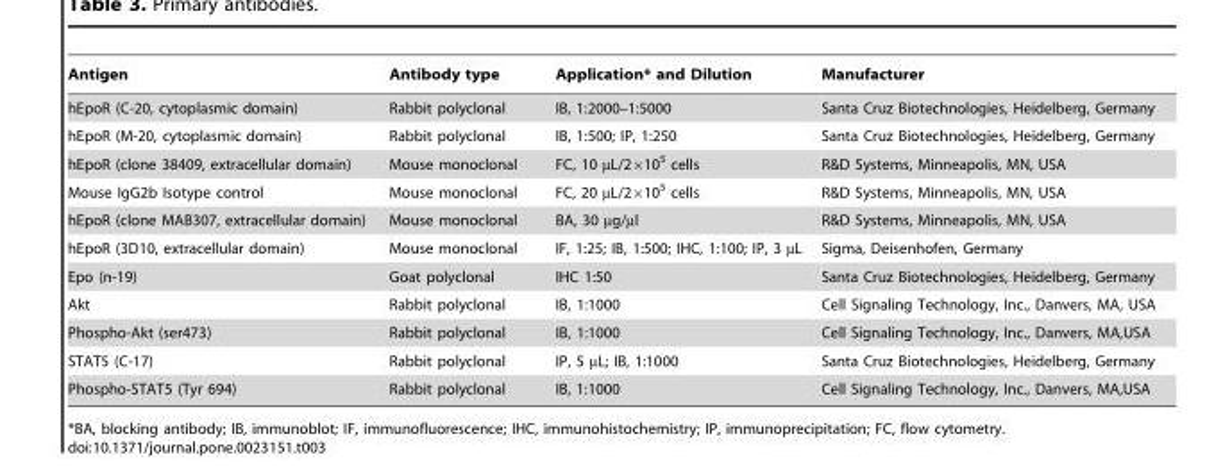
<table><thead><tr><td>Antigen</td><td>Antibody type</td><td>Application* and Dilution</td><td>Manufacturer</td></tr></thead><tbody><tr><td>hEpoR (C-20, cytoplasmic domain)</td><td>Rabbit polyclonal</td><td>IB, 1:2000–1:5000</td><td>Santa Cruz Biotechnologies, Heidelberg, Germany</td></tr><tr><td>hEpoR (M-20, cytoplasmic domain)</td><td>Rabbit polyclonal</td><td>IB, 1:500; IP, 1:250</td><td>Santa Cruz Biotechnologies, Heidelberg, Germany</td></tr><tr><td>hEpoR (clone 38409, extracellular domain)</td><td>Mouse monoclonal</td><td>FC, 10 µL/2×10<sup>5</sup> cells</td><td>R&amp;D Systems, Minneapolis, MN, USA</td></tr><tr><td>Mouse IgG2b Isotype control</td><td>Mouse monoclonal</td><td>FC, 20 µL/2×10<sup>5</sup> cells</td><td>R&amp;D Systems, Minneapolis, MN, USA</td></tr><tr><td>hEpoR (clone MAB307, extracellular domain)</td><td>Mouse monoclonal</td><td>BA, 30 µg/µl</td><td>R&amp;D Systems, Minneapolis, MN, USA</td></tr><tr><td>hEpoR (3D10, extracellular domain)</td><td>Mouse monoclonal</td><td>IF, 1:25; IB, 1:500; IHC, 1:100; IP, 3 µL</td><td>Sigma, Deisenhofen, Germany</td></tr><tr><td>Epo (n-19)</td><td>Goat polyclonal</td><td>IHC 1:50</td><td>Santa Cruz Biotechnologies, Heidelberg, Germany</td></tr><tr><td>Akt</td><td>Rabbit polyclonal</td><td>IB, 1:1000</td><td>Cell Signaling Technology, Inc., Danvers, MA, USA</td></tr><tr><td>Phospho-Akt (ser473)</td><td>Rabbit polyclonal</td><td>IB, 1:1000</td><td>Cell Signaling Technology, Inc., Danvers, MA,USA</td></tr><tr><td>STAT5 (C-17)</td><td>Rabbit polyclonal</td><td>IP, 5 µL; IB, 1:1000</td><td>Santa Cruz Biotechnologies, Heidelberg, Germany</td></tr><tr><td>Phospho-STAT5 (Tyr 694)</td><td>Rabbit polyclonal</td><td>IB, 1:1000</td><td>Cell Signaling Technology, Inc., Danvers, MA,USA</td></tr></tbody></table>